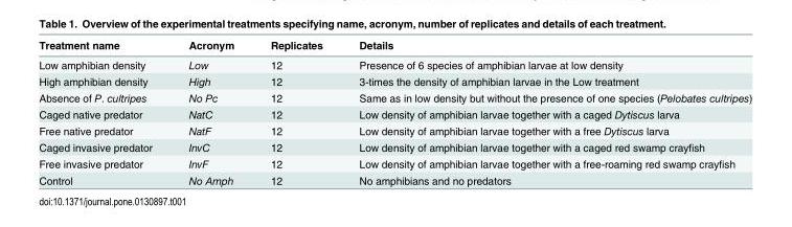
<table><thead><tr><td>Treatment name</td><td>Acronym</td><td>Replicates</td><td>Details</td></tr></thead><tbody><tr><td>Low amphibian density</td><td>Low</td><td>12</td><td>Presence of 6 species of amphibian larvae at low density</td></tr><tr><td>High amphibian density</td><td>High</td><td>12</td><td>3-times the density of amphibian larvae in the Low treatment</td></tr><tr><td>Absence of P. cultripes</td><td>No Pc</td><td>12</td><td>Same as in low density but without the presence of one species (Pelobates cultripes)</td></tr><tr><td>Caged native predator</td><td>NatC</td><td>12</td><td>Low density of amphibian larvae together with a caged Dytiscus larva</td></tr><tr><td>Free native predator</td><td>NatF</td><td>12</td><td>Low density of amphibian larvae together with a free Dytiscus larva</td></tr><tr><td>Caged invasive predator</td><td>InvC</td><td>12</td><td>Low density of amphibian larvae together with a caged red swamp crayfish</td></tr><tr><td>Free invasive predator</td><td>InvF</td><td>12</td><td>Low density of amphibian larvae together with a free-roaming red swamp crayfish</td></tr><tr><td>Control</td><td>No Amph</td><td>12</td><td>No amphibians and no predators</td></tr></tbody></table>